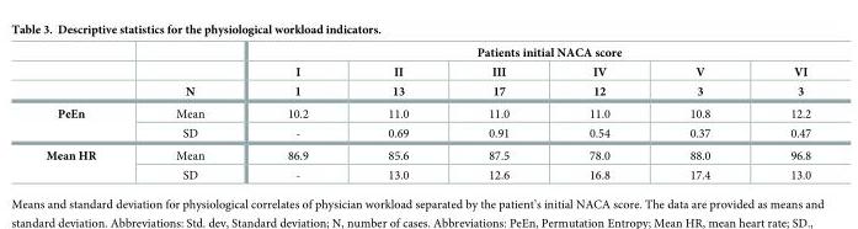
<table><thead><tr><td rowspan="3"></td><td rowspan="3">N</td><td colspan="6">Patients initial NACA score</td></tr><tr><td rowspan="2">I 1</td><td rowspan="2">II 13</td><td rowspan="2">III 17</td><td rowspan="2">IV 12</td><td rowspan="2">V 3</td><td rowspan="2">VI 3</td></tr><tr></tr></thead><tbody><tr><td rowspan="2">PeEn</td><td>Mean</td><td>10.2</td><td>11.0</td><td>11.0</td><td>11.0</td><td>10.8</td><td>12.2</td></tr><tr><td>SD</td><td>-</td><td>0.69</td><td>0.91</td><td>0.54</td><td>0.37</td><td>0.47</td></tr><tr><td rowspan="2">Mean HR</td><td>Mean</td><td>86.9</td><td>85.6</td><td>87.5</td><td>78.0</td><td>88.0</td><td>96.8</td></tr><tr><td>SD</td><td>-</td><td>13.0</td><td>12.6</td><td>16.8</td><td>17.4</td><td>13.0</td></tr></tbody></table>